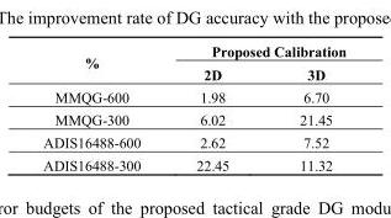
<table><thead><tr><td rowspan="2">%</td><td colspan="2">Proposed Calibration</td></tr><tr><td>2D</td><td>3D</td></tr></thead><tbody><tr><td>MMQG-600</td><td>1.98</td><td>6.70</td></tr><tr><td>MMQG-300</td><td>6.02</td><td>21.45</td></tr><tr><td>ADIS16488-600</td><td>2.62</td><td>7.52</td></tr><tr><td>ADIS16488-300</td><td>22.45</td><td>11.32</td></tr></tbody></table>